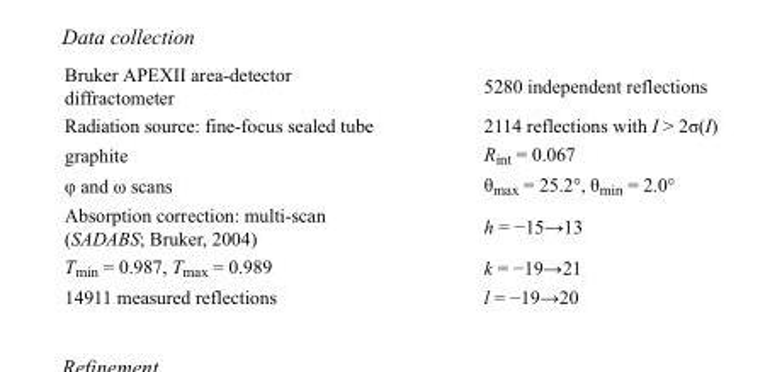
<table><tbody><tr><td>Bruker APEXII area-detector diffractometer</td><td>5280 independent reflections</td></tr><tr><td>Radiation source: fine-focus sealed tube</td><td>2114 reflections with I &gt; 2σ(I)</td></tr><tr><td>graphite</td><td>R<sub>int</sub> = 0.067</td></tr><tr><td>φ and ω scans</td><td>θ<sub>max</sub> = 25.2°, θ<sub>min</sub> = 2.0°</td></tr><tr><td>Absorption correction: multi-scan (SADABS; Bruker, 2004)</td><td>h = −15→13</td></tr><tr><td>T<sub>min</sub> = 0.987, T<sub>max</sub> = 0.989</td><td>k = −19→21</td></tr><tr><td>14911 measured reflections</td><td>l = −19→20</td></tr></tbody></table>